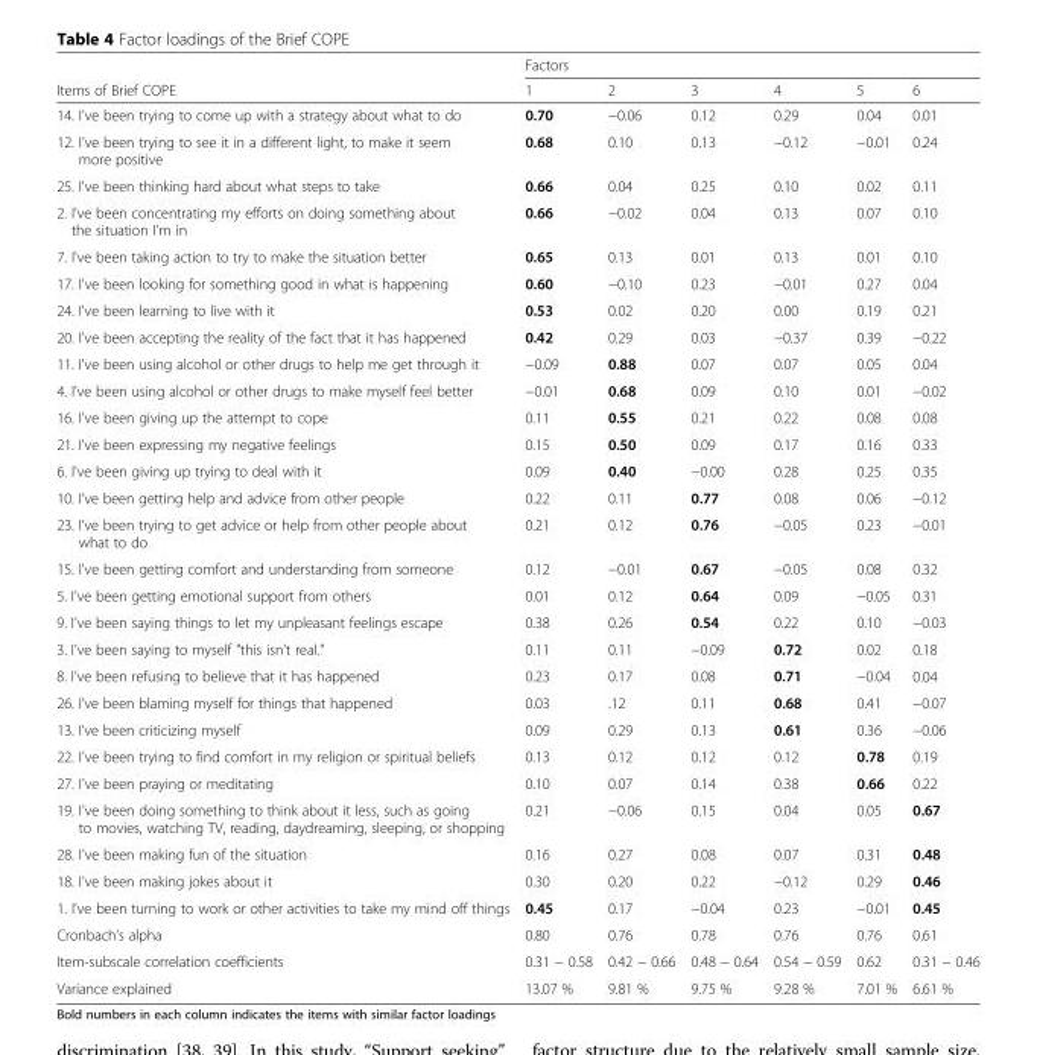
<table><thead><tr><td rowspan="2">Items of Brief COPE</td><td colspan="6">Factors</td></tr><tr><td>1</td><td>2</td><td>3</td><td>4</td><td>5</td><td>6</td></tr></thead><tbody><tr><td>14. I&#x27;ve been trying to come up with a strategy about what to do</td><td>0.70</td><td>−0.06</td><td>0.12</td><td>0.29</td><td>0.04</td><td>0.01</td></tr><tr><td>12. I&#x27;ve been trying to see it in a different light, to make it seem more positive</td><td>0.68</td><td>0.10</td><td>0.13</td><td>−0.12</td><td>−0.01</td><td>0.24</td></tr><tr><td>25. I&#x27;ve been thinking hard about what steps to take</td><td>0.66</td><td>0.04</td><td>0.25</td><td>0.10</td><td>0.02</td><td>0.11</td></tr><tr><td>2. I&#x27;ve been concentrating my efforts on doing something about the situation I&#x27;m in</td><td>0.66</td><td>−0.02</td><td>0.04</td><td>0.13</td><td>0.07</td><td>0.10</td></tr><tr><td>7. I&#x27;ve been taking action to try to make the situation better</td><td>0.65</td><td>0.13</td><td>0.01</td><td>0.13</td><td>0.01</td><td>0.10</td></tr><tr><td>17. I&#x27;ve been looking for something good in what is happening</td><td>0.60</td><td>−0.10</td><td>0.23</td><td>−0.01</td><td>0.27</td><td>0.04</td></tr><tr><td>24. I&#x27;ve been learning to live with it</td><td>0.53</td><td>0.02</td><td>0.20</td><td>0.00</td><td>0.19</td><td>0.21</td></tr><tr><td>20. I&#x27;ve been accepting the reality of the fact that it has happened</td><td>0.42</td><td>0.29</td><td>0.03</td><td>−0.37</td><td>0.39</td><td>−0.22</td></tr><tr><td>11. I&#x27;ve been using alcohol or other drugs to help me get through it</td><td>−0.09</td><td>0.88</td><td>0.07</td><td>0.07</td><td>0.05</td><td>0.04</td></tr><tr><td>4. I&#x27;ve been using alcohol or other drugs to make myself feel better</td><td>−0.01</td><td>0.68</td><td>0.09</td><td>0.10</td><td>0.01</td><td>−0.02</td></tr><tr><td>16. I&#x27;ve been giving up the attempt to cope</td><td>0.11</td><td>0.55</td><td>0.21</td><td>0.22</td><td>0.08</td><td>0.08</td></tr><tr><td>21. I&#x27;ve been expressing my negative feelings</td><td>0.15</td><td>0.50</td><td>0.09</td><td>0.17</td><td>0.16</td><td>0.33</td></tr><tr><td>6. I&#x27;ve been giving up trying to deal with it</td><td>0.09</td><td>0.40</td><td>−0.00</td><td>0.28</td><td>0.25</td><td>0.35</td></tr><tr><td>10. I’ve been getting help and advice from other people</td><td>0.22</td><td>0.11</td><td>0.77</td><td>0.08</td><td>0.06</td><td>−0.12</td></tr><tr><td>23. I’ve been trying to get advice or help from other people about what to do</td><td>0.21</td><td>0.12</td><td>0.76</td><td>−0.05</td><td>0.23</td><td>−0.01</td></tr><tr><td>15. I&#x27;ve been getting comfort and understanding from someone</td><td>0.12</td><td>−0.01</td><td>0.67</td><td>−0.05</td><td>0.08</td><td>0.32</td></tr><tr><td>5. I&#x27;ve been getting emotional support from others</td><td>0.01</td><td>0.12</td><td>0.64</td><td>0.09</td><td>−0.05</td><td>0.31</td></tr><tr><td>9. I&#x27;ve been saying things to let my unpleasant feelings escape</td><td>0.38</td><td>0.26</td><td>0.54</td><td>0.22</td><td>0.10</td><td>−0.03</td></tr><tr><td>3. I&#x27;ve been saying to myself &quot;this isn&#x27;t real.&quot;</td><td>0.11</td><td>0.11</td><td>−0.09</td><td>0.72</td><td>0.02</td><td>0.18</td></tr><tr><td>8. I&#x27;ve been refusing to believe that it has happened</td><td>0.23</td><td>0.17</td><td>0.08</td><td>0.71</td><td>−0.04</td><td>0.04</td></tr><tr><td>26. I’ve been blaming myself for things that happened</td><td>0.03</td><td>.12</td><td>0.11</td><td>0.68</td><td>0.41</td><td>−0.07</td></tr><tr><td>13. I’ve been criticizing myself</td><td>0.09</td><td>0.29</td><td>0.13</td><td>0.61</td><td>0.36</td><td>−0.06</td></tr><tr><td>22. I&#x27;ve been trying to find comfort in my religion or spiritual beliefs</td><td>0.13</td><td>0.12</td><td>0.12</td><td>0.12</td><td>0.78</td><td>0.19</td></tr><tr><td>27. I&#x27;ve been praying or meditating</td><td>0.10</td><td>0.07</td><td>0.14</td><td>0.38</td><td>0.66</td><td>0.22</td></tr><tr><td>19. I&#x27;ve been doing something to think about it less, such as going to movies, watching TV, reading, daydreaming, sleeping, or shopping</td><td>0.21</td><td>−0.06</td><td>0.15</td><td>0.04</td><td>0.05</td><td>0.67</td></tr><tr><td>28. I&#x27;ve been making fun of the situation</td><td>0.16</td><td>0.27</td><td>0.08</td><td>0.07</td><td>0.31</td><td>0.48</td></tr><tr><td>18. I&#x27;ve been making jokes about it</td><td>0.30</td><td>0.20</td><td>0.22</td><td>−0.12</td><td>0.29</td><td>0.46</td></tr><tr><td>1. I&#x27;ve been turning to work or other activities to take my mind off things</td><td>0.45</td><td>0.17</td><td>−0.04</td><td>0.23</td><td>−0.01</td><td>0.45</td></tr><tr><td>Cronbach’s alpha</td><td>0.80</td><td>0.76</td><td>0.78</td><td>0.76</td><td>0.76</td><td>0.61</td></tr><tr><td>Item-subscale correlation coefficients</td><td>0.31 − 0.58</td><td>0.42 − 0.66</td><td>0.48 − 0.64</td><td>0.54 − 0.59</td><td>0.62</td><td>0.31 − 0.46</td></tr><tr><td>Variance explained</td><td>13.07 %</td><td>9.81 %</td><td>9.75 %</td><td>9.28 %</td><td>7.01 %</td><td>6.61 %</td></tr></tbody></table>